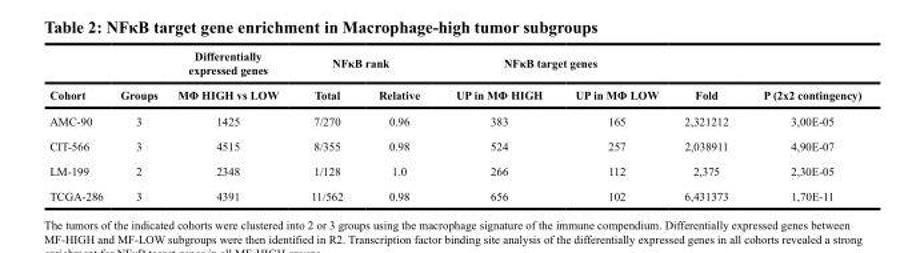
<table><thead><tr><td rowspan="2">Cohort</td><td rowspan="2">Groups</td><td rowspan="2">Differentially expressed genes MΦ HIGH vs LOW</td><td colspan="2">NFκB rank</td><td colspan="2">NFκB target genes</td><td rowspan="2">Fold</td><td rowspan="2">P (2x2 contingency)</td></tr><tr><td>Total</td><td>Relative</td><td>UP in MΦ HIGH</td><td>UP in MΦ LOW</td></tr></thead><tbody><tr><td>AMC-90</td><td>3</td><td>1425</td><td>7/270</td><td>0.96</td><td>383</td><td>165</td><td>2,321212</td><td>3,00E-05</td></tr><tr><td>CIT-566</td><td>3</td><td>4515</td><td>8/355</td><td>0.98</td><td>524</td><td>257</td><td>2,038911</td><td>4,90E-07</td></tr><tr><td>LM-199</td><td>2</td><td>2348</td><td>1/128</td><td>1.0</td><td>266</td><td>112</td><td>2,375</td><td>2,30E-05</td></tr><tr><td>TCGA-286</td><td>3</td><td>4391</td><td>11/562</td><td>0.98</td><td>656</td><td>102</td><td>6,431373</td><td>1,70E-11</td></tr></tbody></table>